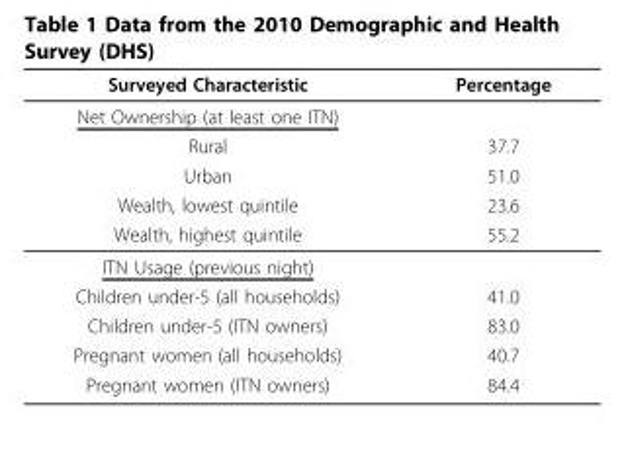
<table><thead><tr><td>Surveyed Characteristic</td><td>Percentage</td></tr></thead><tbody><tr><td colspan="2">Net Ownership (at least one ITN)</td></tr><tr><td>Rural</td><td>37.7</td></tr><tr><td>Urban</td><td>51.0</td></tr><tr><td>Wealth, lowest quintile</td><td>23.6</td></tr><tr><td>Wealth, highest quintile</td><td>55.2</td></tr><tr><td colspan="2">ITN Usage (previous night)</td></tr><tr><td>Children under-5 (all households)</td><td>41.0</td></tr><tr><td>Children under-5 (ITN owners)</td><td>83.0</td></tr><tr><td>Pregnant women (all households)</td><td>40.7</td></tr><tr><td>Pregnant women (ITN owners)</td><td>84.4</td></tr></tbody></table>